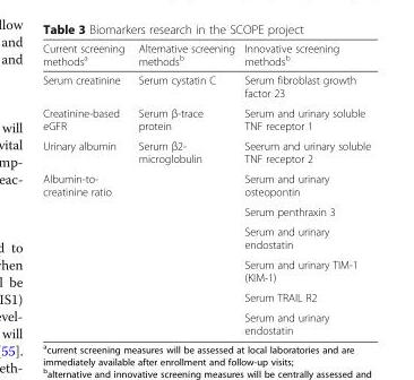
<table><thead><tr><td>Current screening methods<sup>a</sup></td><td>Alternative screening methods<sup>b</sup></td><td>Innovative screening methods<sup>b</sup></td></tr></thead><tbody><tr><td>Serum creatinine</td><td>Serum cystatin C</td><td>Serum fibroblast growth factor 23</td></tr><tr><td>Creatinine-based eGFR</td><td>Serum β-trace protein</td><td>Serum and urinary soluble TNF receptor 1</td></tr><tr><td>Urinary albumin</td><td>Serum β2- microglobulin</td><td>Seerum and urinary soluble TNF receptor 2</td></tr><tr><td rowspan="6">Albumin-to- creatinine ratio</td><td></td><td>Serum and urinary osteopontin</td></tr><tr><td></td><td>Serum penthraxin 3</td></tr><tr><td></td><td>Serum and urinary endostatin</td></tr><tr><td></td><td>Serum and urinary TIM-1 (KIM-1)</td></tr><tr><td></td><td>Serum TRAIL R2</td></tr><tr><td></td><td>Serum and urinary endostatin</td></tr></tbody></table>